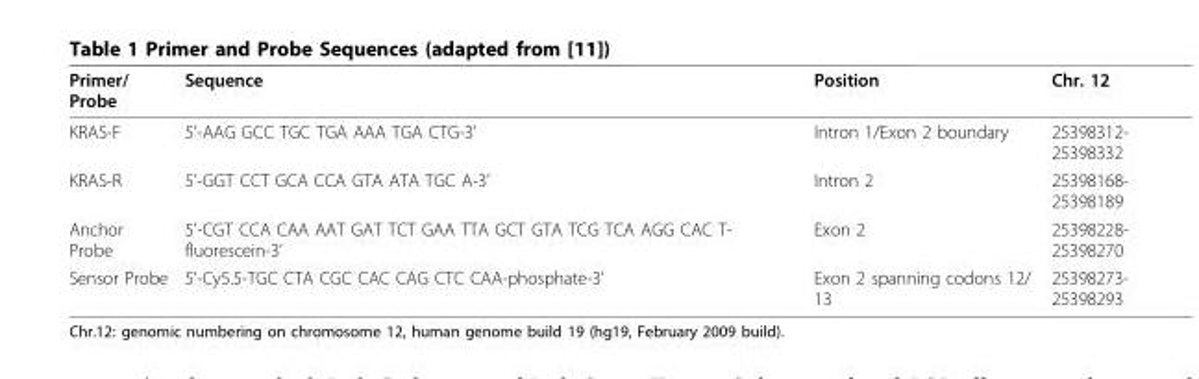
<table><thead><tr><td>Primer/ Probe</td><td>Sequence</td><td>Position</td><td>Chr. 12</td></tr></thead><tbody><tr><td>KRAS-F</td><td>5’-AAG GCC TGC TGA AAA TGA CTG-3’</td><td>Intron 1/Exon 2 boundary</td><td>25398312- 25398332</td></tr><tr><td>KRAS-R</td><td>5’-GGT CCT GCA CCA GTA ATA TGC A-3’</td><td>Intron 2</td><td>25398168- 25398189</td></tr><tr><td>Anchor Probe</td><td>5’-CGT CCA CAA AAT GAT TCT GAA TTA GCT GTA TCG TCA AGG CAC T- fluorescein-3’</td><td>Exon 2</td><td>25398228- 25398270</td></tr><tr><td>Sensor Probe</td><td>5’-Cy5.5-TGC CTA CGC CAC CAG CTC CAA-phosphate-3’</td><td>Exon 2 spanning codons 12/ 13</td><td>25398273- 25398293</td></tr></tbody></table>